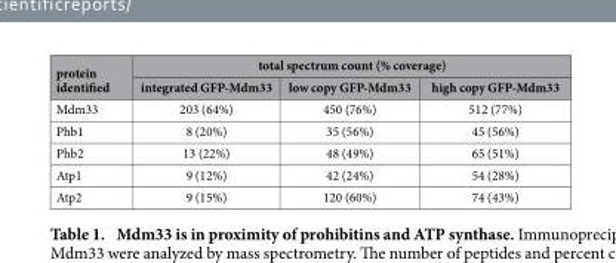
<table><thead><tr><td rowspan="2">protein identified</td><td colspan="3">total spectrum count (% coverage)</td></tr><tr><td>integrated GFP-Mdm33</td><td>low copy GFP-Mdm33</td><td>high copy GFP-Mdm33</td></tr></thead><tbody><tr><td>Mdm33</td><td>203 (64%)</td><td>450 (76%)</td><td>512 (77%)</td></tr><tr><td>Phb1</td><td>8 (20%)</td><td>35 (56%)</td><td>45 (56%)</td></tr><tr><td>Phb2</td><td>13 (22%)</td><td>48 (49%)</td><td>65 (51%)</td></tr><tr><td>Atp1</td><td>9 (12%)</td><td>42 (24%)</td><td>54 (28%)</td></tr><tr><td>Atp2</td><td>9 (15%)</td><td>120 (60%)</td><td>74 (43%)</td></tr></tbody></table>